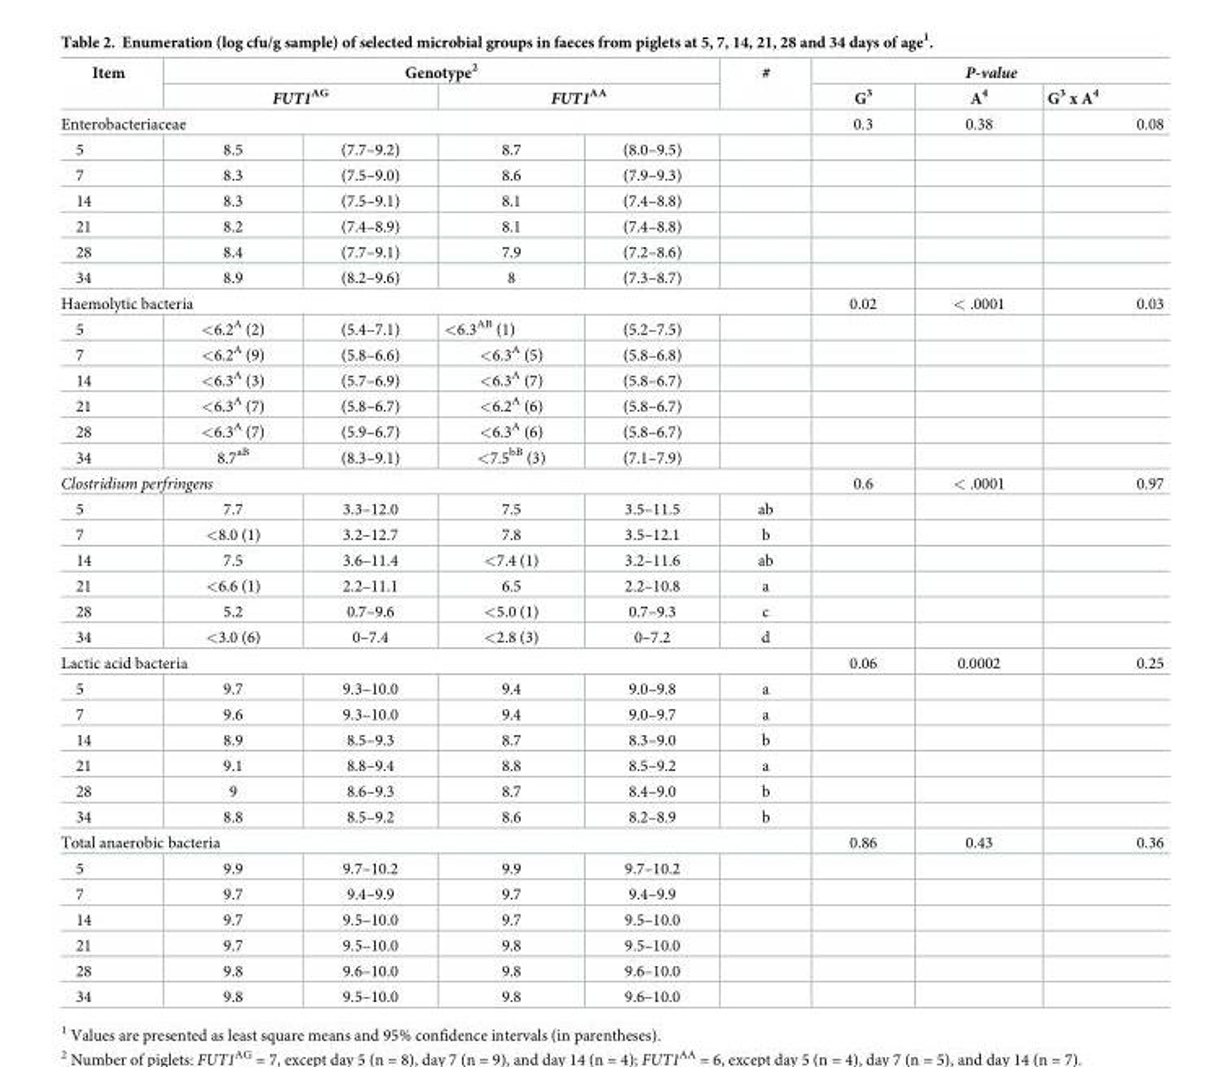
<table><thead><tr><td rowspan="2">Item</td><td colspan="4">Genotype<sup>2</sup></td><td rowspan="2">#</td><td colspan="3">P-value</td></tr><tr><td colspan="2">FUT1<sup>AG</sup></td><td colspan="2">FUT1<sup>AA</sup></td><td rowspan="3">G<sup>3</sup> 0.3</td><td rowspan="3">A<sup>4</sup> 0.38</td><td rowspan="3">G<sup>3</sup> x A<sup>4</sup> 0.08</td></tr><tr><td colspan="6">Enterobacteriaceae</td></tr><tr><td>5</td><td>8.5</td><td>(7.7–9.2)</td><td>8.7</td><td>(8.0–9.5)</td><td></td></tr></thead><tbody><tr><td>7</td><td>8.3</td><td>(7.5–9.0)</td><td>8.6</td><td>(7.9–9.3)</td><td></td><td></td><td></td><td></td></tr><tr><td>14</td><td>8.3</td><td>(7.5–9.1)</td><td>8.1</td><td>(7.4–8.8)</td><td></td><td></td><td></td><td></td></tr><tr><td>21</td><td>8.2</td><td>(7.4–8.9)</td><td>8.1</td><td>(7.4–8.8)</td><td></td><td></td><td></td><td></td></tr><tr><td>28</td><td>8.4</td><td>(7.7–9.1)</td><td>7.9</td><td>(7.2–8.6)</td><td></td><td></td><td></td><td></td></tr><tr><td>34</td><td>8.9</td><td>(8.2–9.6)</td><td>8</td><td>(7.3–8.7)</td><td></td><td></td><td></td><td></td></tr><tr><td colspan="6">Haemolytic bacteria</td><td>0.02</td><td>&lt; .0001</td><td>0.03</td></tr><tr><td>5</td><td>&lt;6.2<sup>A</sup> (2)</td><td>(5.4–7.1)</td><td>&lt;6.3<sup>AB</sup> (1)</td><td>(5.2–7.5)</td><td></td><td></td><td></td><td></td></tr><tr><td>7</td><td>&lt;6.2<sup>A</sup> (9)</td><td>(5.8–6.6)</td><td>&lt;6.3<sup>A</sup> (5)</td><td>(5.8–6.8)</td><td></td><td></td><td></td><td></td></tr><tr><td>14</td><td>&lt;6.3<sup>A</sup> (3)</td><td>(5.7–6.9)</td><td>&lt;6.3<sup>A</sup> (7)</td><td>(5.8–6.7)</td><td></td><td></td><td></td><td></td></tr><tr><td>21</td><td>&lt;6.3<sup>A</sup> (7)</td><td>(5.8–6.7)</td><td>&lt;6.2<sup>A</sup> (6)</td><td>(5.8–6.7)</td><td></td><td></td><td></td><td></td></tr><tr><td>28</td><td>&lt;6.3<sup>A</sup> (7)</td><td>(5.9–6.7)</td><td>&lt;6.3<sup>A</sup> (6)</td><td>(5.8–6.7)</td><td></td><td></td><td></td><td></td></tr><tr><td>34</td><td>8.7<sup>aB</sup></td><td>(8.3–9.1)</td><td>&lt;7.5<sup>bB</sup> (3)</td><td>(7.1–7.9)</td><td></td><td></td><td></td><td></td></tr><tr><td colspan="6">Clostridium perfringens</td><td>0.6</td><td>&lt; .0001</td><td>0.97</td></tr><tr><td>5</td><td>7.7</td><td>3.3–12.0</td><td>7.5</td><td>3.5–11.5</td><td>ab</td><td></td><td></td><td></td></tr><tr><td>7</td><td>&lt;8.0 (1)</td><td>3.2–12.7</td><td>7.8</td><td>3.5–12.1</td><td>b</td><td></td><td></td><td></td></tr><tr><td>14</td><td>7.5</td><td>3.6–11.4</td><td>&lt;7.4 (1)</td><td>3.2–11.6</td><td>ab</td><td></td><td></td><td></td></tr><tr><td>21</td><td>&lt;6.6 (1)</td><td>2.2–11.1</td><td>6.5</td><td>2.2–10.8</td><td>a</td><td></td><td></td><td></td></tr><tr><td>28</td><td>5.2</td><td>0.7–9.6</td><td>&lt;5.0 (1)</td><td>0.7–9.3</td><td>c</td><td></td><td></td><td></td></tr><tr><td>34</td><td>&lt;3.0 (6)</td><td>0–7.4</td><td>&lt;2.8 (3)</td><td>0–7.2</td><td>d</td><td></td><td></td><td></td></tr><tr><td colspan="6">Lactic acid bacteria</td><td>0.06</td><td>0.0002</td><td>0.25</td></tr><tr><td>5</td><td>9.7</td><td>9.3–10.0</td><td>9.4</td><td>9.0–9.8</td><td>a</td><td></td><td></td><td></td></tr><tr><td>7</td><td>9.6</td><td>9.3–10.0</td><td>9.4</td><td>9.0–9.7</td><td>a</td><td></td><td></td><td></td></tr><tr><td>14</td><td>8.9</td><td>8.5–9.3</td><td>8.7</td><td>8.3–9.0</td><td>b</td><td></td><td></td><td></td></tr><tr><td>21</td><td>9.1</td><td>8.8–9.4</td><td>8.8</td><td>8.5–9.2</td><td>a</td><td></td><td></td><td></td></tr><tr><td>28</td><td>9</td><td>8.6–9.3</td><td>8.7</td><td>8.4–9.0</td><td>b</td><td></td><td></td><td></td></tr><tr><td>34</td><td>8.8</td><td>8.5–9.2</td><td>8.6</td><td>8.2–8.9</td><td>b</td><td></td><td></td><td></td></tr><tr><td colspan="6">Total anaerobic bacteria</td><td>0.86</td><td>0.43</td><td>0.36</td></tr><tr><td>5</td><td>9.9</td><td>9.7–10.2</td><td>9.9</td><td>9.7–10.2</td><td></td><td></td><td></td><td></td></tr><tr><td>7</td><td>9.7</td><td>9.4–9.9</td><td>9.7</td><td>9.4–9.9</td><td></td><td></td><td></td><td></td></tr><tr><td>14</td><td>9.7</td><td>9.5–10.0</td><td>9.7</td><td>9.5–10.0</td><td></td><td></td><td></td><td></td></tr><tr><td>21</td><td>9.7</td><td>9.5–10.0</td><td>9.8</td><td>9.5–10.0</td><td></td><td></td><td></td><td></td></tr><tr><td>28</td><td>9.8</td><td>9.6–10.0</td><td>9.8</td><td>9.6–10.0</td><td></td><td></td><td></td><td></td></tr><tr><td>34</td><td>9.8</td><td>9.5–10.0</td><td>9.8</td><td>9.6–10.0</td><td></td><td></td><td></td><td></td></tr></tbody></table>